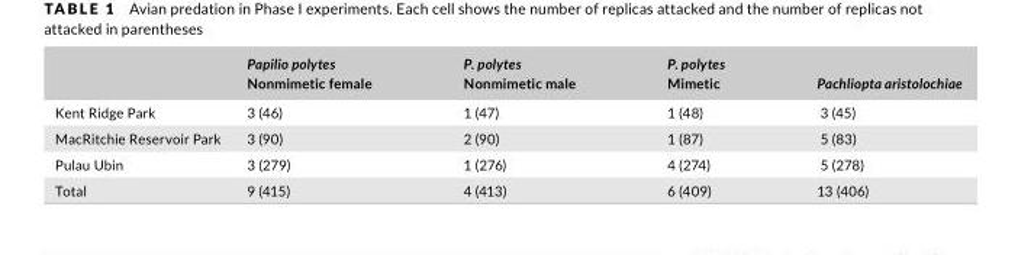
<table><thead><tr><td></td><td>Papilio polytes Nonmimetic female</td><td>P. polytes Nonmimetic male</td><td>P. polytes Mimetic</td><td>Pachliopta aristolochiae</td></tr></thead><tbody><tr><td>Kent Ridge Park</td><td>3 (46)</td><td>1 (47)</td><td>1 (48)</td><td>3 (45)</td></tr><tr><td>MacRitchie Reservoir Park</td><td>3 (90)</td><td>2 (90)</td><td>1 (87)</td><td>5 (83)</td></tr><tr><td>Pulau Ubin</td><td>3 (279)</td><td>1 (276)</td><td>4 (274)</td><td>5 (278)</td></tr><tr><td>Total</td><td>9 (415)</td><td>4 (413)</td><td>6 (409)</td><td>13 (406)</td></tr></tbody></table>